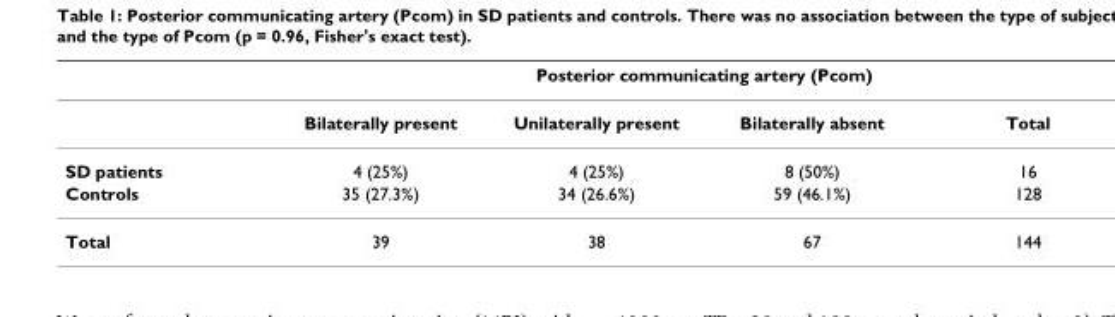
<table><thead><tr><td rowspan="2"></td><td colspan="4">Posterior communicating artery (Pcom)</td></tr><tr><td>Bilaterally present</td><td>Unilaterally present</td><td>Bilaterally absent</td><td>Total</td></tr></thead><tbody><tr><td>SD patients</td><td>4 (25%)</td><td>4 (25%)</td><td>8 (50%)</td><td>16</td></tr><tr><td>Controls</td><td>35 (27.3%)</td><td>34 (26.6%)</td><td>59 (46.1%)</td><td>128</td></tr><tr><td>Total</td><td>39</td><td>38</td><td>67</td><td>144</td></tr></tbody></table>